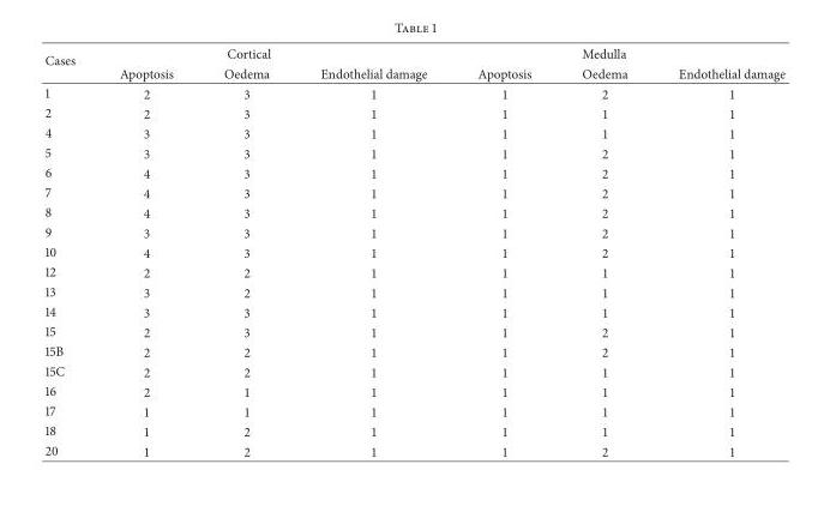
<table><thead><tr><td rowspan="2">Cases</td><td colspan="3">Cortical</td><td colspan="3">Medulla</td></tr><tr><td>Apoptosis</td><td>Oedema</td><td>Endothelial damage</td><td>Apoptosis</td><td>Oedema</td><td>Endothelial damage</td></tr></thead><tbody><tr><td>1</td><td>2</td><td>3</td><td>1</td><td>1</td><td>2</td><td>1</td></tr><tr><td>2</td><td>2</td><td>3</td><td>1</td><td>1</td><td>1</td><td>1</td></tr><tr><td>4</td><td>3</td><td>3</td><td>1</td><td>1</td><td>1</td><td>1</td></tr><tr><td>5</td><td>3</td><td>3</td><td>1</td><td>1</td><td>2</td><td>1</td></tr><tr><td>6</td><td>4</td><td>3</td><td>1</td><td>1</td><td>2</td><td>1</td></tr><tr><td>7</td><td>4</td><td>3</td><td>1</td><td>1</td><td>2</td><td>1</td></tr><tr><td>8</td><td>4</td><td>3</td><td>1</td><td>1</td><td>2</td><td>1</td></tr><tr><td>9</td><td>3</td><td>3</td><td>1</td><td>1</td><td>2</td><td>1</td></tr><tr><td>10</td><td>4</td><td>3</td><td>1</td><td>1</td><td>2</td><td>1</td></tr><tr><td>12</td><td>2</td><td>2</td><td>1</td><td>1</td><td>1</td><td>1</td></tr><tr><td>13</td><td>3</td><td>2</td><td>1</td><td>1</td><td>1</td><td>1</td></tr><tr><td>14</td><td>3</td><td>3</td><td>1</td><td>1</td><td>1</td><td>1</td></tr><tr><td>15</td><td>2</td><td>3</td><td>1</td><td>1</td><td>2</td><td>1</td></tr><tr><td>15B</td><td>2</td><td>2</td><td>1</td><td>1</td><td>2</td><td>1</td></tr><tr><td>15C</td><td>2</td><td>2</td><td>1</td><td>1</td><td>1</td><td>1</td></tr><tr><td>16</td><td>2</td><td>1</td><td>1</td><td>1</td><td>1</td><td>1</td></tr><tr><td>17</td><td>1</td><td>1</td><td>1</td><td>1</td><td>1</td><td>1</td></tr><tr><td>18</td><td>1</td><td>2</td><td>1</td><td>1</td><td>1</td><td>1</td></tr><tr><td>20</td><td>1</td><td>2</td><td>1</td><td>1</td><td>2</td><td>1</td></tr></tbody></table>